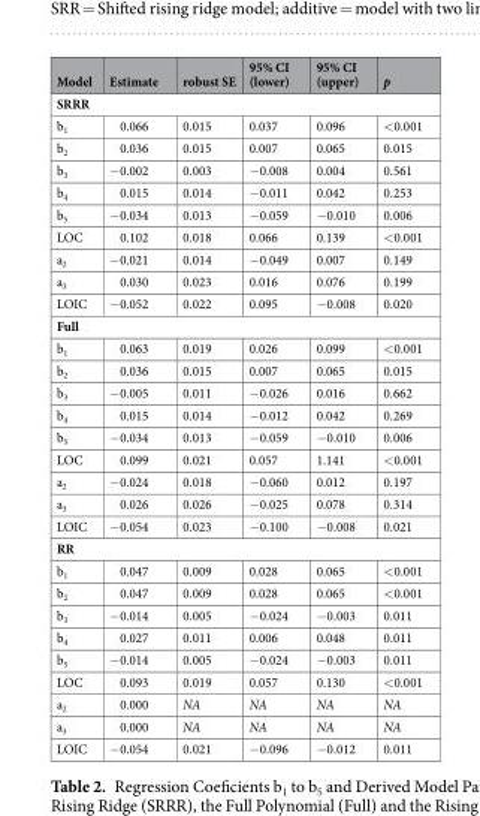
<table><thead><tr><td>Model</td><td>Estimate</td><td>robust SE</td><td>95% CI (lower)</td><td>95% CI (upper)</td><td>p</td></tr></thead><tbody><tr><td colspan="6">SRRR</td></tr><tr><td>b<sub>1</sub></td><td>0.066</td><td>0.015</td><td>0.037</td><td>0.096</td><td>&lt;0.001</td></tr><tr><td>b<sub>2</sub></td><td>0.036</td><td>0.015</td><td>0.007</td><td>0.065</td><td>0.015</td></tr><tr><td>b<sub>3</sub></td><td>−0.002</td><td>0.003</td><td>−0.008</td><td>0.004</td><td>0.561</td></tr><tr><td>b<sub>4</sub></td><td>0.015</td><td>0.014</td><td>−0.011</td><td>0.042</td><td>0.253</td></tr><tr><td>b<sub>5</sub></td><td>−0.034</td><td>0.013</td><td>−0.059</td><td>−0.010</td><td>0.006</td></tr><tr><td>LOC</td><td>0.102</td><td>0.018</td><td>0.066</td><td>0.139</td><td>&lt;0.001</td></tr><tr><td>a<sub>2</sub></td><td>−0.021</td><td>0.014</td><td>−0.049</td><td>0.007</td><td>0.149</td></tr><tr><td>a<sub>3</sub></td><td>0.030</td><td>0.023</td><td>0.016</td><td>0.076</td><td>0.199</td></tr><tr><td>LOIC</td><td>−0.052</td><td>0.022</td><td>0.095</td><td>−0.008</td><td>0.020</td></tr><tr><td colspan="6">Full</td></tr><tr><td>b<sub>1</sub></td><td>0.063</td><td>0.019</td><td>0.026</td><td>0.099</td><td>&lt;0.001</td></tr><tr><td>b<sub>2</sub></td><td>0.036</td><td>0.015</td><td>0.007</td><td>0.065</td><td>0.015</td></tr><tr><td>b<sub>3</sub></td><td>−0.005</td><td>0.011</td><td>−0.026</td><td>0.016</td><td>0.662</td></tr><tr><td>b<sub>4</sub></td><td>0.015</td><td>0.014</td><td>−0.012</td><td>0.042</td><td>0.269</td></tr><tr><td>b<sub>5</sub></td><td>−0.034</td><td>0.013</td><td>−0.059</td><td>−0.010</td><td>0.006</td></tr><tr><td>LOC</td><td>0.099</td><td>0.021</td><td>0.057</td><td>1.141</td><td>&lt;0.001</td></tr><tr><td>a<sub>2</sub></td><td>−0.024</td><td>0.018</td><td>−0.060</td><td>0.012</td><td>0.197</td></tr><tr><td>a<sub>3</sub></td><td>0.026</td><td>0.026</td><td>−0.025</td><td>0.078</td><td>0.314</td></tr><tr><td>LOIC</td><td>−0.054</td><td>0.023</td><td>−0.100</td><td>−0.008</td><td>0.021</td></tr><tr><td colspan="6">RR</td></tr><tr><td>b<sub>1</sub></td><td>0.047</td><td>0.009</td><td>0.028</td><td>0.065</td><td>&lt;0.001</td></tr><tr><td>b<sub>2</sub></td><td>0.047</td><td>0.009</td><td>0.028</td><td>0.065</td><td>&lt;0.001</td></tr><tr><td>b<sub>3</sub></td><td>−0.014</td><td>0.005</td><td>−0.024</td><td>−0.003</td><td>0.011</td></tr><tr><td>b<sub>4</sub></td><td>0.027</td><td>0.011</td><td>0.006</td><td>0.048</td><td>0.011</td></tr><tr><td>b<sub>5</sub></td><td>−0.014</td><td>0.005</td><td>−0.024</td><td>−0.003</td><td>0.011</td></tr><tr><td>LOC</td><td>0.093</td><td>0.019</td><td>0.057</td><td>0.130</td><td>&lt;0.001</td></tr><tr><td>a<sub>2</sub></td><td>0.000</td><td>NA</td><td>NA</td><td>NA</td><td>NA</td></tr><tr><td>a<sub>3</sub></td><td>0.000</td><td>NA</td><td>NA</td><td>NA</td><td>NA</td></tr><tr><td>LOIC</td><td>−0.054</td><td>0.021</td><td>−0.096</td><td>−0.012</td><td>0.011</td></tr></tbody></table>